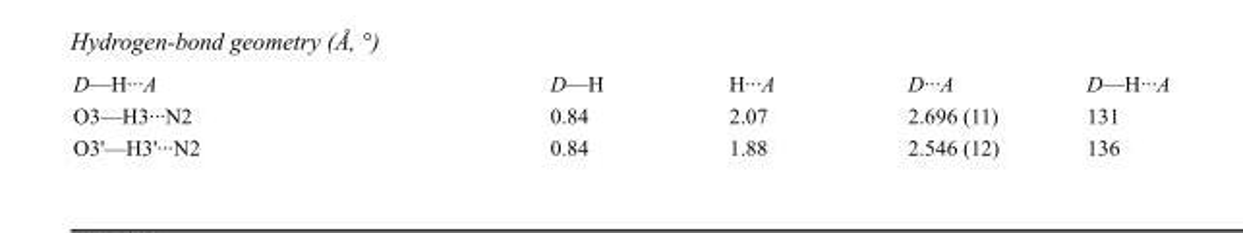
<table><tbody><tr><td>D—H···A</td><td>D—H</td><td>H···A</td><td>D···A</td><td>D—H···A</td></tr><tr><td>O3—H3···N2</td><td>0.84</td><td>2.07</td><td>2.696 (11)</td><td>131</td></tr><tr><td>O3&#x27;—H3&#x27;···N2</td><td>0.84</td><td>1.88</td><td>2.546 (12)</td><td>136</td></tr></tbody></table>